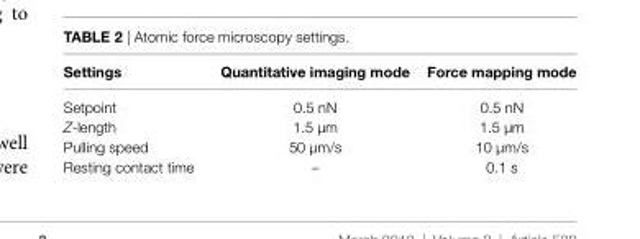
<table><thead><tr><td>settings</td><td>Quantitative imaging mode</td><td>Force mapping mode</td></tr></thead><tbody><tr><td>Setpoint</td><td>0.5 nN</td><td>0.5 nN</td></tr><tr><td>Z-length</td><td>1.5 µm</td><td>1.5 µm</td></tr><tr><td>Pulling speed</td><td>50 µm/s</td><td>10 µm/s</td></tr><tr><td>Resting contact time</td><td>–</td><td>0.1 s</td></tr></tbody></table>